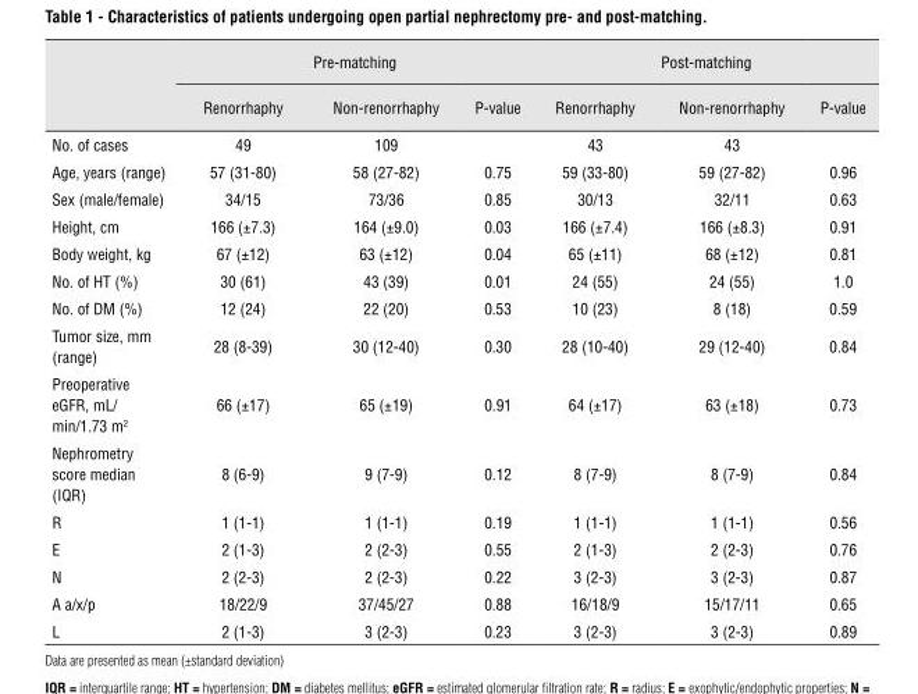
<table><thead><tr><td rowspan="2"></td><td colspan="3">Pre-matching</td><td colspan="3">Post-matching</td></tr><tr><td>Renorrhaphy</td><td>Non-renorrhaphy</td><td>P-value</td><td>Renorrhaphy</td><td>Non-renorrhaphy</td><td>P-value</td></tr></thead><tbody><tr><td>No. of cases</td><td>49</td><td>109</td><td></td><td>43</td><td>43</td><td></td></tr><tr><td>Age, years (range)</td><td>57 (31-80)</td><td>58 (27-82)</td><td>0.75</td><td>59 (33-80)</td><td>59 (27-82)</td><td>0.96</td></tr><tr><td>Sex (male/female)</td><td>34/15</td><td>73/36</td><td>0.85</td><td>30/13</td><td>32/11</td><td>0.63</td></tr><tr><td>Height, cm</td><td>166 (±7.3)</td><td>164 (±9.0)</td><td>0.03</td><td>166 (±7.4)</td><td>166 (±8.3)</td><td>0.91</td></tr><tr><td>Body weight, kg</td><td>67 (±12)</td><td>63 (±12)</td><td>0.04</td><td>65 (±11)</td><td>68 (±12)</td><td>0.81</td></tr><tr><td>No. of HT (%)</td><td>30 (61)</td><td>43 (39)</td><td>0.01</td><td>24 (55)</td><td>24 (55)</td><td>1.0</td></tr><tr><td>No. of DM (%)</td><td>12 (24)</td><td>22 (20)</td><td>0.53</td><td>10 (23)</td><td>8 (18)</td><td>0.59</td></tr><tr><td>Tumor size, mm (range)</td><td>28 (8-39)</td><td>30 (12-40)</td><td>0.30</td><td>28 (10-40)</td><td>29 (12-40)</td><td>0.84</td></tr><tr><td>Preoperative eGFR, mL/ min/1.73 m<sup>2</sup></td><td>66 (±17)</td><td>65 (±19)</td><td>0.91</td><td>64 (±17)</td><td>63 (±18)</td><td>0.73</td></tr><tr><td>Nephrometry score median (IQR)</td><td>8 (6-9)</td><td>9 (7-9)</td><td>0.12</td><td>8 (7-9)</td><td>8 (7-9)</td><td>0.84</td></tr><tr><td>R</td><td>1 (1-1)</td><td>1 (1-1)</td><td>0.19</td><td>1 (1-1)</td><td>1 (1-1)</td><td>0.56</td></tr><tr><td>E</td><td>2 (1-3)</td><td>2 (2-3)</td><td>0.55</td><td>2 (1-3)</td><td>2 (2-3)</td><td>0.76</td></tr><tr><td>N</td><td>2 (2-3)</td><td>2 (2-3)</td><td>0.22</td><td>3 (2-3)</td><td>3 (2-3)</td><td>0.87</td></tr><tr><td>A a/x/p</td><td>18/22/9</td><td>37/45/27</td><td>0.88</td><td>16/18/9</td><td>15/17/11</td><td>0.65</td></tr><tr><td>L</td><td>2 (1-3)</td><td>3 (2-3)</td><td>0.23</td><td>3 (2-3)</td><td>3 (2-3)</td><td>0.89</td></tr></tbody></table>